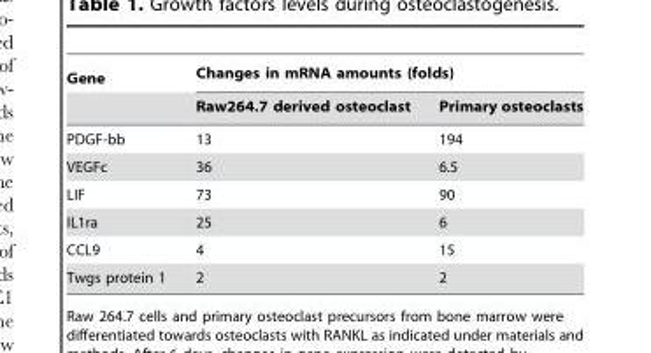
<table><thead><tr><td rowspan="2">Gene</td><td colspan="2">Changes in mRNA amounts (folds)</td></tr><tr><td>Raw264.7 derived osteoclast</td><td>Primary osteoclasts</td></tr></thead><tbody><tr><td>PDGF-bb</td><td>13</td><td>194</td></tr><tr><td>VEGFc</td><td>36</td><td>6.5</td></tr><tr><td>LIF</td><td>73</td><td>90</td></tr><tr><td>IL1ra</td><td>25</td><td>6</td></tr><tr><td>CCL9</td><td>4</td><td>15</td></tr><tr><td>Twgs protein 1</td><td>2</td><td>2</td></tr></tbody></table>